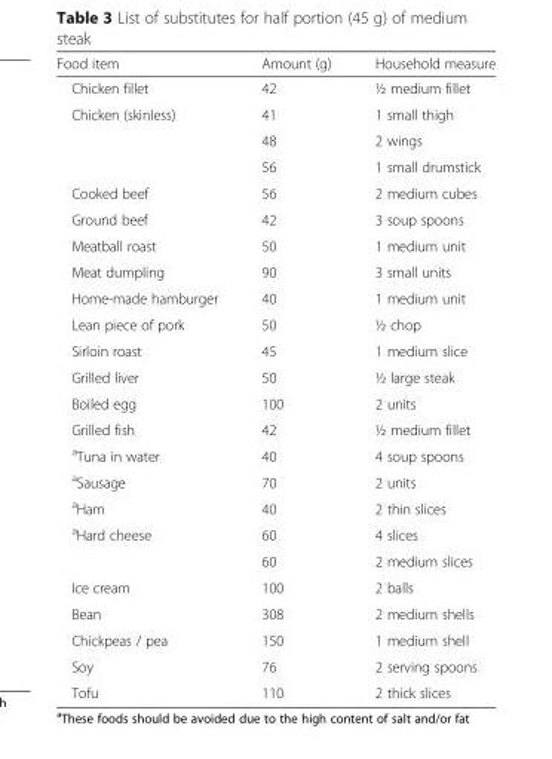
<table><thead><tr><td>Food item</td><td>Amount (g)</td><td>Household measure</td></tr></thead><tbody><tr><td>Chicken fillet</td><td>42</td><td>½ medium fillet</td></tr><tr><td rowspan="3">Chicken (skinless)</td><td>41</td><td>1 small thigh</td></tr><tr><td>48</td><td>2 wings</td></tr><tr><td>56</td><td>1 small drumstick</td></tr><tr><td>Cooked beef</td><td>56</td><td>2 medium cubes</td></tr><tr><td>Ground beef</td><td>42</td><td>3 soup spoons</td></tr><tr><td>Meatball roast</td><td>50</td><td>1 medium unit</td></tr><tr><td>Meat dumpling</td><td>90</td><td>3 small units</td></tr><tr><td>Home-made hamburger</td><td>40</td><td>1 medium unit</td></tr><tr><td>Lean piece of pork</td><td>50</td><td>½ chop</td></tr><tr><td>Sirloin roast</td><td>45</td><td>1 medium slice</td></tr><tr><td>Grilled liver</td><td>50</td><td>½ large steak</td></tr><tr><td>Boiled egg</td><td>100</td><td>2 units</td></tr><tr><td>Grilled fish</td><td>42</td><td>½ medium fillet</td></tr><tr><td><sup>a</sup>Tuna in water</td><td>40</td><td>4 soup spoons</td></tr><tr><td><sup>a</sup>Sausage</td><td>70</td><td>2 units</td></tr><tr><td><sup>a</sup>Ham</td><td>40</td><td>2 thin slices</td></tr><tr><td rowspan="2"><sup>a</sup>Hard cheese</td><td>60</td><td>4 slices</td></tr><tr><td>60</td><td>2 medium slices</td></tr><tr><td>Ice cream</td><td>100</td><td>2 balls</td></tr><tr><td>Bean</td><td>308</td><td>2 medium shells</td></tr><tr><td>Chickpeas / pea</td><td>150</td><td>1 medium shell</td></tr><tr><td>Soy</td><td>76</td><td>2 serving spoons</td></tr><tr><td>Tofu</td><td>110</td><td>2 thick slices</td></tr></tbody></table>